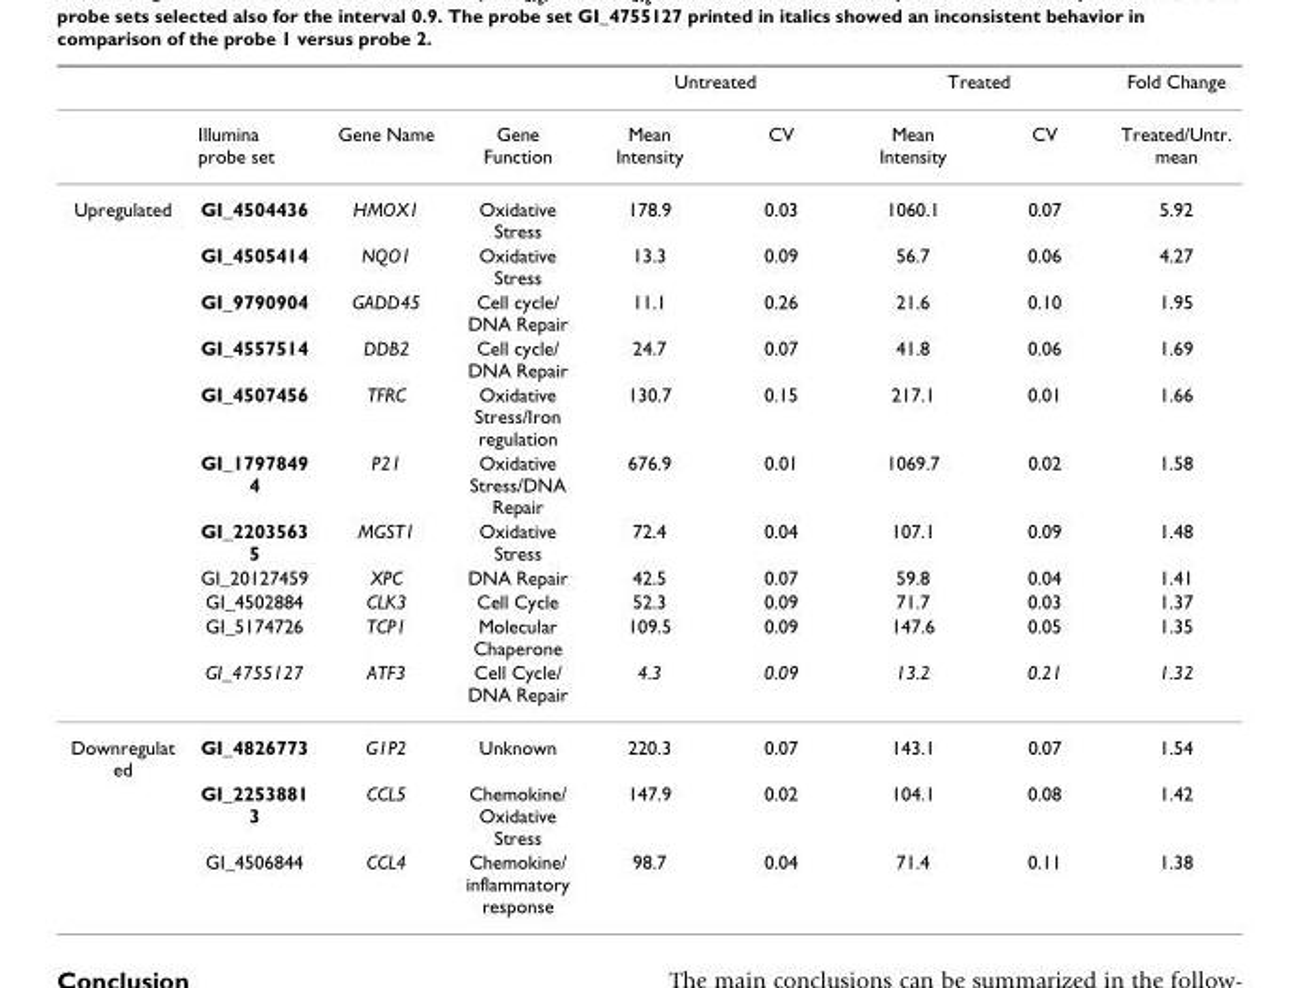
<table><thead><tr><td rowspan="2"></td><td rowspan="2">Illumina probe set</td><td rowspan="2">Gene Name</td><td rowspan="2">Gene Function</td><td colspan="2">Untreated</td><td colspan="2">Treated</td><td rowspan="2">Fold Change Treated/Untr. mean</td></tr><tr><td>Mean Intensity</td><td>CV</td><td>Mean Intensity</td><td>CV</td></tr></thead><tbody><tr><td rowspan="11">Upregulated</td><td>GI_4504436</td><td>HMOX1</td><td>Oxidative Stress</td><td>178.9</td><td>0.03</td><td>1060.1</td><td>0.07</td><td>5.92</td></tr><tr><td>GI_4505414</td><td>NQO1</td><td>Oxidative Stress</td><td>13.3</td><td>0.09</td><td>56.7</td><td>0.06</td><td>4.27</td></tr><tr><td>GI_9790904</td><td>GADD45</td><td>Cell cycle/ DNA Repair</td><td>11.1</td><td>0.26</td><td>21.6</td><td>0.10</td><td>1.95</td></tr><tr><td>GI_4557514</td><td>DDB2</td><td>Cell cycle/ DNA Repair</td><td>24.7</td><td>0.07</td><td>41.8</td><td>0.06</td><td>1.69</td></tr><tr><td>GI_4507456</td><td>TFRC</td><td>Oxidative Stress/Iron regulation</td><td>130.7</td><td>0.15</td><td>217.1</td><td>0.01</td><td>1.66</td></tr><tr><td>GI_1797849 4</td><td>P21</td><td>Oxidative Stress/DNA Repair</td><td>676.9</td><td>0.01</td><td>1069.7</td><td>0.02</td><td>1.58</td></tr><tr><td>GI_2203563 5</td><td>MGST1</td><td>Oxidative Stress</td><td>72.4</td><td>0.04</td><td>107.1</td><td>0.09</td><td>1.48</td></tr><tr><td>GI_20127459</td><td>XPC</td><td>DNA Repair</td><td>42.5</td><td>0.07</td><td>59.8</td><td>0.04</td><td>1.41</td></tr><tr><td>GI_4502884</td><td>CLK3</td><td>Cell Cycle</td><td>52.3</td><td>0.09</td><td>71.7</td><td>0.03</td><td>1.37</td></tr><tr><td>GI_5174726</td><td>TCP1</td><td>Molecular Chaperone</td><td>109.5</td><td>0.09</td><td>147.6</td><td>0.05</td><td>1.35</td></tr><tr><td>GI_4755127</td><td>ATF3</td><td>Cell Cycle/ DNA Repair</td><td>4.3</td><td>0.09</td><td>13.2</td><td>0.21</td><td>1.32</td></tr><tr><td rowspan="3">Downregulat ed</td><td>GI_4826773</td><td>G1P2</td><td>Unknown</td><td>220.3</td><td>0.07</td><td>143.1</td><td>0.07</td><td>1.54</td></tr><tr><td>GI_2253881 3</td><td>CCL5</td><td>Chemokine/ Oxidative Stress</td><td>147.9</td><td>0.02</td><td>104.1</td><td>0.08</td><td>1.42</td></tr><tr><td>GI_4506844</td><td>CCL4</td><td>Chemokine/ inflammatory response</td><td>98.7</td><td>0.04</td><td>71.4</td><td>0.11</td><td>1.38</td></tr></tbody></table>